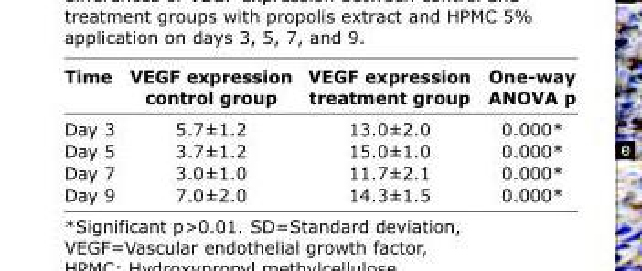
<table><thead><tr><td>Time</td><td>VEGF expression control group</td><td>VEGF expression treatment group</td><td>One-way ANOVA p</td></tr></thead><tbody><tr><td>Day 3</td><td>5.7±1.2</td><td>13.0±2.0</td><td>0.000*</td></tr><tr><td>Day 5</td><td>3.7±1.2</td><td>15.0±1.0</td><td>0.000*</td></tr><tr><td>Day 7</td><td>3.0±1.0</td><td>11.7±2.1</td><td>0.000*</td></tr><tr><td>Day 9</td><td>7.0±2.0</td><td>14.3±1.5</td><td>0.000*</td></tr></tbody></table>